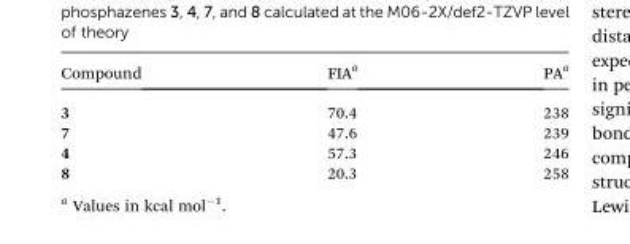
<table><thead><tr><td>Compound</td><td>FIA<sup>a</sup></td><td>PA<sup>a</sup></td></tr></thead><tbody><tr><td>3</td><td>70.4</td><td>238</td></tr><tr><td>7</td><td>47.6</td><td>239</td></tr><tr><td>4</td><td>57.3</td><td>246</td></tr><tr><td>8</td><td>20.3</td><td>258</td></tr></tbody></table>